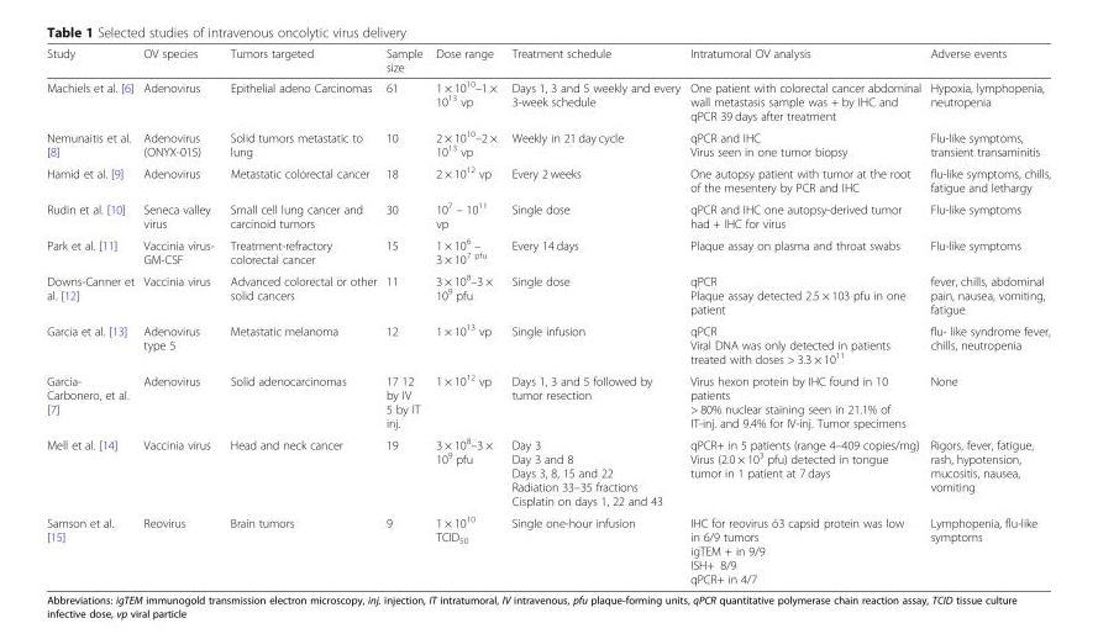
<table><thead><tr><td>Study</td><td>OV species</td><td>Tumors targeted</td><td>Sample size</td><td>Dose range</td><td>Treatment schedule</td><td>Intratumoral OV analysis</td><td>Adverse events</td></tr></thead><tbody><tr><td>Machiels et al. [6]</td><td>Adenovirus</td><td>Epithelial adeno Carcinomas</td><td>61</td><td>1 × 10<sup>10</sup>–1 × 10<sup>13</sup> vp</td><td>Days 1, 3 and 5 weekly and every 3-week schedule</td><td>One patient with colorectal cancer abdominal wall metastasis sample was + by IHC and qPCR 39 days after treatment</td><td>Hypoxia, lymphopenia, neutropenia</td></tr><tr><td>Nemunaitis et al. [8]</td><td>Adenovirus (ONYX-015)</td><td>Solid tumors metastatic to lung</td><td>10</td><td>2 × 10<sup>10</sup>–2 × 10<sup>13</sup> vp</td><td>Weekly in 21 day cycle</td><td>qPCR and IHC Virus seen in one tumor biopsy</td><td>Flu-like symptoms, transient transaminitis</td></tr><tr><td>Hamid et al. [9]</td><td>Adenovirus</td><td>Metastatic colorectal cancer</td><td>18</td><td>2 × 10<sup>12</sup> vp</td><td>Every 2 weeks</td><td>One autopsy patient with tumor at the root of the mesentery by PCR and IHC</td><td>flu-like symptoms, chills, fatigue and lethargy</td></tr><tr><td>Rudin et al. [10]</td><td>Seneca valley virus</td><td>Small cell lung cancer and carcinoid tumors</td><td>30</td><td>10<sup>7</sup> – 10<sup>11</sup> vp</td><td>Single dose</td><td>qPCR and IHC one autopsy-derived tumor had + IHC for virus</td><td>Flu-like symptoms</td></tr><tr><td>Park et al. [11]</td><td>Vaccinia virus- GM-CSF</td><td>Treatment-refractory colorectal cancer</td><td>15</td><td>1 × 10<sup>6</sup> – 3 × 10<sup>7 pfu</sup></td><td>Every 14 days</td><td>Plaque assay on plasma and throat swabs</td><td>Flu-like symptoms</td></tr><tr><td>Downs-Canner et al. [12]</td><td>Vaccinia virus</td><td>Advanced colorectal or other solid cancers</td><td>11</td><td>3 × 10<sup>8</sup>–3 × 10<sup>9</sup> pfu</td><td>Single dose</td><td>qPCR Plaque assay detected 2.5 × 103 pfu in one patient</td><td>fever, chills, abdominal pain, nausea, vomiting, fatigue</td></tr><tr><td>Garcia et al. [13]</td><td>Adenovirus type 5</td><td>Metastatic melanoma</td><td>12</td><td>1 × 10<sup>13</sup> vp</td><td>Single infusion</td><td>qPCR Viral DNA was only detected in patients treated with doses &gt; 3.3 × 10<sup>11</sup></td><td>flu- like syndrome fever, chills, neutropenia</td></tr><tr><td>Garcia- Carbonero, et al. [7]</td><td>Adenovirus</td><td>Solid adenocarcinomas</td><td>17 12 by IV 5 by IT inj.</td><td>1 × 10<sup>12</sup> vp</td><td>Days 1, 3 and 5 followed by tumor resection</td><td>Virus hexon protein by IHC found in 10 patients &gt; 80% nuclear staining seen in 21.1% of IT-inj. and 9.4% for IV-inj. Tumor specimens</td><td>None</td></tr><tr><td>Mell et al. [14]</td><td>Vaccinia virus</td><td>Head and neck cancer</td><td>19</td><td>3 × 10<sup>8</sup>–3 × 10<sup>9</sup> pfu</td><td>Day 3 Day 3 and 8 Days 3, 8, 15 and 22 Radiation 33–35 fractions Cisplatin on days 1, 22 and 43</td><td>qPCR+ in 5 patients (range 4–409 copies/mg) Virus (2.0 × 10<sup>3</sup> pfu) detected in tongue tumor in 1 patient at 7 days</td><td>Rigors, fever, fatigue, rash, hypotension, mucositis, nausea, vomiting</td></tr><tr><td>Samson et al. [15]</td><td>Reovirus</td><td>Brain tumors</td><td>9</td><td>1 × 10<sup>10</sup> TCID<sub>50</sub></td><td>Single one-hour infusion</td><td>IHC for reovirus ó3 capsid protein was low in 6/9 tumors igTEM + in 9/9 ISH+ 8/9 qPCR+ in 4/7</td><td>Lymphopenia, flu-like symptoms</td></tr></tbody></table>